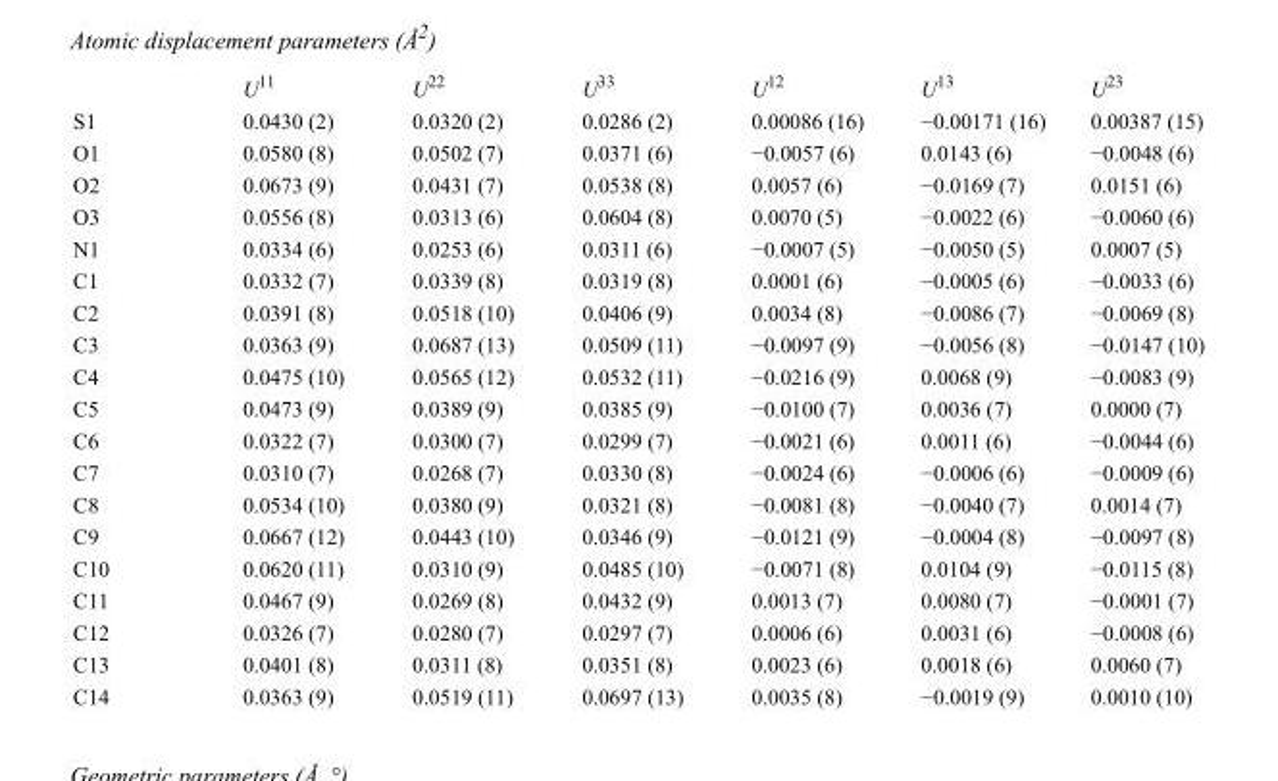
<table><thead><tr><td></td><td>U<sup>11</sup></td><td>U<sup>22</sup></td><td>U<sup>33</sup></td><td>U<sup>12</sup></td><td>U<sup>13</sup></td><td>U<sup>23</sup></td></tr></thead><tbody><tr><td>S1</td><td>0.0430 (2)</td><td>0.0320 (2)</td><td>0.0286 (2)</td><td>0.00086 (16)</td><td>−0.00171 (16)</td><td>0.00387 (15)</td></tr><tr><td>O1</td><td>0.0580 (8)</td><td>0.0502 (7)</td><td>0.0371 (6)</td><td>−0.0057 (6)</td><td>0.0143 (6)</td><td>−0.0048 (6)</td></tr><tr><td>O2</td><td>0.0673 (9)</td><td>0.0431 (7)</td><td>0.0538 (8)</td><td>0.0057 (6)</td><td>−0.0169 (7)</td><td>0.0151 (6)</td></tr><tr><td>O3</td><td>0.0556 (8)</td><td>0.0313 (6)</td><td>0.0604 (8)</td><td>0.0070 (5)</td><td>−0.0022 (6)</td><td>−0.0060 (6)</td></tr><tr><td>N1</td><td>0.0334 (6)</td><td>0.0253 (6)</td><td>0.0311 (6)</td><td>−0.0007 (5)</td><td>−0.0050 (5)</td><td>0.0007 (5)</td></tr><tr><td>C1</td><td>0.0332 (7)</td><td>0.0339 (8)</td><td>0.0319 (8)</td><td>0.0001 (6)</td><td>−0.0005 (6)</td><td>−0.0033 (6)</td></tr><tr><td>C2</td><td>0.0391 (8)</td><td>0.0518 (10)</td><td>0.0406 (9)</td><td>0.0034 (8)</td><td>−0.0086 (7)</td><td>−0.0069 (8)</td></tr><tr><td>C3</td><td>0.0363 (9)</td><td>0.0687 (13)</td><td>0.0509 (11)</td><td>−0.0097 (9)</td><td>−0.0056 (8)</td><td>−0.0147 (10)</td></tr><tr><td>C4</td><td>0.0475 (10)</td><td>0.0565 (12)</td><td>0.0532 (11)</td><td>−0.0216 (9)</td><td>0.0068 (9)</td><td>−0.0083 (9)</td></tr><tr><td>C5</td><td>0.0473 (9)</td><td>0.0389 (9)</td><td>0.0385 (9)</td><td>−0.0100 (7)</td><td>0.0036 (7)</td><td>0.0000 (7)</td></tr><tr><td>C6</td><td>0.0322 (7)</td><td>0.0300 (7)</td><td>0.0299 (7)</td><td>−0.0021 (6)</td><td>0.0011 (6)</td><td>−0.0044 (6)</td></tr><tr><td>C7</td><td>0.0310 (7)</td><td>0.0268 (7)</td><td>0.0330 (8)</td><td>−0.0024 (6)</td><td>−0.0006 (6)</td><td>−0.0009 (6)</td></tr><tr><td>C8</td><td>0.0534 (10)</td><td>0.0380 (9)</td><td>0.0321 (8)</td><td>−0.0081 (8)</td><td>−0.0040 (7)</td><td>0.0014 (7)</td></tr><tr><td>C9</td><td>0.0667 (12)</td><td>0.0443 (10)</td><td>0.0346 (9)</td><td>−0.0121 (9)</td><td>−0.0004 (8)</td><td>−0.0097 (8)</td></tr><tr><td>C10</td><td>0.0620 (11)</td><td>0.0310 (9)</td><td>0.0485 (10)</td><td>−0.0071 (8)</td><td>0.0104 (9)</td><td>−0.0115 (8)</td></tr><tr><td>C11</td><td>0.0467 (9)</td><td>0.0269 (8)</td><td>0.0432 (9)</td><td>0.0013 (7)</td><td>0.0080 (7)</td><td>−0.0001 (7)</td></tr><tr><td>C12</td><td>0.0326 (7)</td><td>0.0280 (7)</td><td>0.0297 (7)</td><td>0.0006 (6)</td><td>0.0031 (6)</td><td>−0.0008 (6)</td></tr><tr><td>C13</td><td>0.0401 (8)</td><td>0.0311 (8)</td><td>0.0351 (8)</td><td>0.0023 (6)</td><td>0.0018 (6)</td><td>0.0060 (7)</td></tr><tr><td>C14</td><td>0.0363 (9)</td><td>0.0519 (11)</td><td>0.0697 (13)</td><td>0.0035 (8)</td><td>−0.0019 (9)</td><td>0.0010 (10)</td></tr></tbody></table>